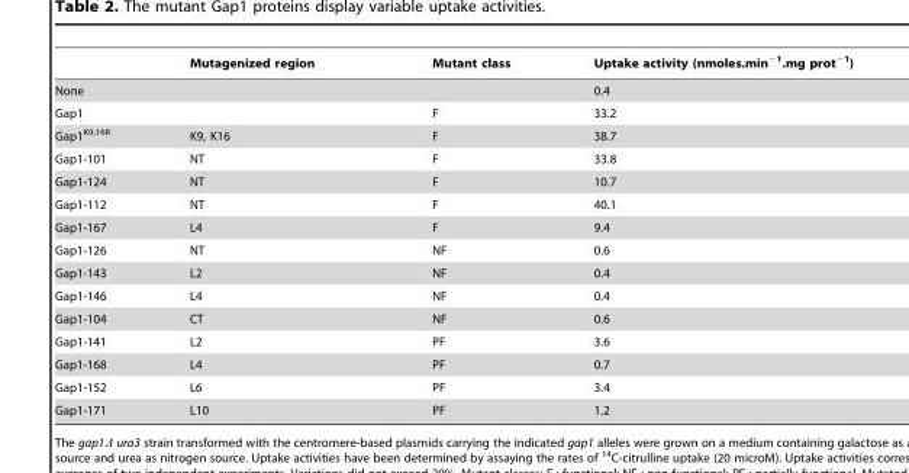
<table><thead><tr><td></td><td>Mutagenized region</td><td>Mutant class</td><td>Uptake activity (nmoles.min<sup>−1</sup>.mg prot<sup>−1</sup>)</td></tr></thead><tbody><tr><td>None</td><td></td><td></td><td>0.4</td></tr><tr><td>Gap1</td><td></td><td>F</td><td>33.2</td></tr><tr><td>Gap1<sup>K9,16R</sup></td><td>K9, K16</td><td>F</td><td>38.7</td></tr><tr><td>Gap1-101</td><td>NT</td><td>F</td><td>33.8</td></tr><tr><td>Gap1-124</td><td>NT</td><td>F</td><td>10.7</td></tr><tr><td>Gap1-112</td><td>NT</td><td>F</td><td>40.1</td></tr><tr><td>Gap1-167</td><td>L4</td><td>F</td><td>9.4</td></tr><tr><td>Gap1-126</td><td>NT</td><td>NF</td><td>0.6</td></tr><tr><td>Gap1-143</td><td>L2</td><td>NF</td><td>0.4</td></tr><tr><td>Gap1-146</td><td>L4</td><td>NF</td><td>0.4</td></tr><tr><td>Gap1-104</td><td>CT</td><td>NF</td><td>0.6</td></tr><tr><td>Gap1-141</td><td>L2</td><td>PF</td><td>3.6</td></tr><tr><td>Gap1-168</td><td>L4</td><td>PF</td><td>0.7</td></tr><tr><td>Gap1-152</td><td>L6</td><td>PF</td><td>3.4</td></tr><tr><td>Gap1-171</td><td>L10</td><td>PF</td><td>1.2</td></tr></tbody></table>